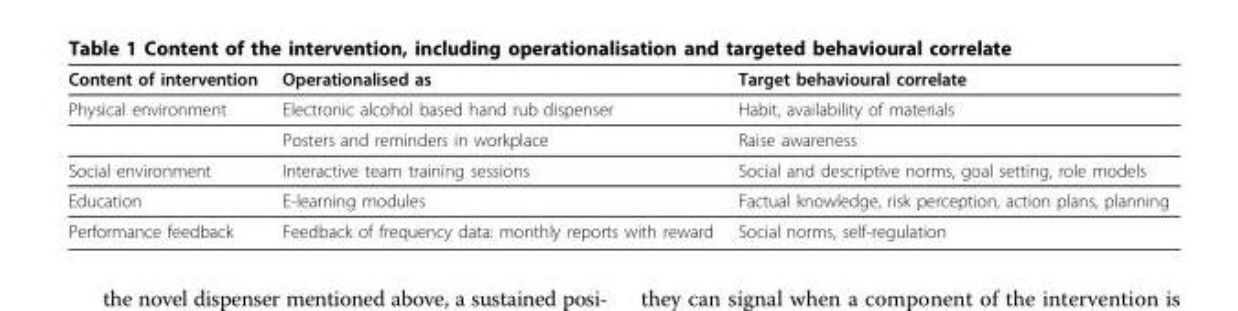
<table><thead><tr><td>Content of intervention</td><td>Operationalised as</td><td>Target behavioural correlate</td></tr></thead><tbody><tr><td rowspan="2">Physical environment</td><td>Electronic alcohol based hand rub dispenser</td><td>Habit, availability of materials</td></tr><tr><td>Posters and reminders in workplace</td><td>Raise awareness</td></tr><tr><td>Social environment</td><td>Interactive team training sessions</td><td>Social and descriptive norms, goal setting, role models</td></tr><tr><td>Education</td><td>E-learning modules</td><td>Factual knowledge, risk perception, action plans, planning</td></tr><tr><td>Performance feedback</td><td>Feedback of frequency data: monthly reports with reward</td><td>Social norms, self-regulation</td></tr></tbody></table>